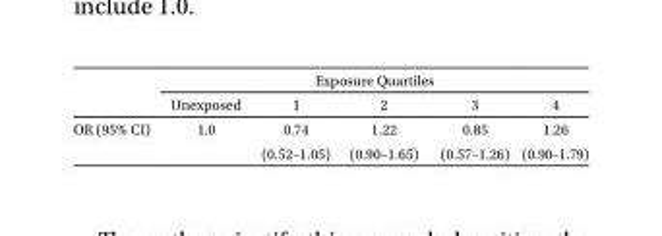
<table><thead><tr><td rowspan="2"></td><td colspan="5">Exposure Quartiles</td></tr><tr><td>Unexposed</td><td>1</td><td>2</td><td>3</td><td>4</td></tr></thead><tbody><tr><td rowspan="2">OR (95% CI)</td><td>1.0</td><td>0.74</td><td>1.22</td><td>0.85</td><td>1.26</td></tr><tr><td></td><td>(0.52–1.05)</td><td>(0.90–1.65)</td><td>(0.57–1.26)</td><td>(0.90–1.79)</td></tr></tbody></table>